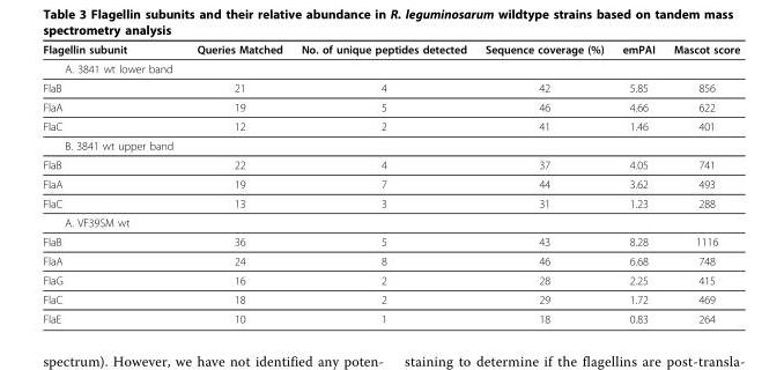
<table><thead><tr><td>Flagellin subunit</td><td>Queries Matched</td><td>No. of unique peptides detected</td><td>Sequence coverage (%)</td><td>emPAI</td><td>Mascot score</td></tr></thead><tbody><tr><td colspan="6">A. 3841 wt lower band</td></tr><tr><td>FlaB</td><td>21</td><td>4</td><td>42</td><td>5.85</td><td>856</td></tr><tr><td>FlaA</td><td>19</td><td>5</td><td>46</td><td>4.66</td><td>622</td></tr><tr><td>FlaC</td><td>12</td><td>2</td><td>41</td><td>1.46</td><td>401</td></tr><tr><td colspan="6">B. 3841 wt upper band</td></tr><tr><td>FlaB</td><td>22</td><td>4</td><td>37</td><td>4.05</td><td>741</td></tr><tr><td>FlaA</td><td>19</td><td>7</td><td>44</td><td>3.62</td><td>493</td></tr><tr><td>FlaC</td><td>13</td><td>3</td><td>31</td><td>1.23</td><td>288</td></tr><tr><td colspan="6">A. VF39SM wt</td></tr><tr><td>FlaB</td><td>36</td><td>5</td><td>43</td><td>8.28</td><td>1116</td></tr><tr><td>FlaA</td><td>24</td><td>8</td><td>46</td><td>6.68</td><td>748</td></tr><tr><td>FlaG</td><td>16</td><td>2</td><td>28</td><td>2.25</td><td>415</td></tr><tr><td>FlaC</td><td>18</td><td>2</td><td>29</td><td>1.72</td><td>469</td></tr><tr><td>FlaE</td><td>10</td><td>1</td><td>18</td><td>0.83</td><td>264</td></tr></tbody></table>